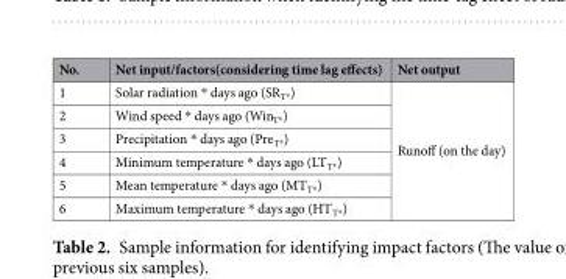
<table><thead><tr><td>No.</td><td>Net input/factors(considering time lag effects)</td><td>Net output</td></tr></thead><tbody><tr><td>1</td><td>Solar radiation * days ago (SR<sub>T*</sub>)</td><td rowspan="6">Runoff (on the day)</td></tr><tr><td>2</td><td>Wind speed * days ago (Win<sub>T*</sub>)</td></tr><tr><td>3</td><td>Precipitation * days ago (Pre<sub>T*</sub>)</td></tr><tr><td>4</td><td>Minimum temperature * days ago (LT<sub>T*</sub>)</td></tr><tr><td>5</td><td>Mean temperature * days ago (MT<sub>T*</sub>)</td></tr><tr><td>6</td><td>Maximum temperature * days ago (HT<sub>T*</sub>)</td></tr></tbody></table>